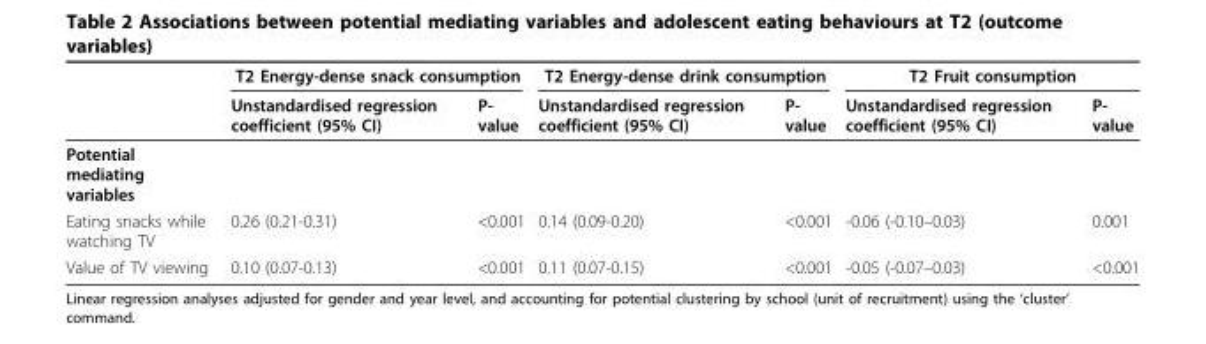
<table><thead><tr><td rowspan="2"></td><td colspan="2">T2 Energy-dense snack consumption</td><td colspan="2">T2 Energy-dense drink consumption</td><td colspan="2">T2 Fruit consumption</td></tr><tr><td>Unstandardised regression coefficient (95% CI)</td><td>P- value</td><td>Unstandardised regression coefficient (95% CI)</td><td>P- value</td><td>Unstandardised regression coefficient (95% CI)</td><td>P- value</td></tr></thead><tbody><tr><td colspan="7">Potential mediating variables</td></tr><tr><td>Eating snacks while watching TV</td><td>0.26 (0.21-0.31)</td><td>&lt;0.001</td><td>0.14 (0.09-0.20)</td><td>&lt;0.001</td><td>-0.06 (-0.10–0.03)</td><td>0.001</td></tr><tr><td>Value of TV viewing</td><td>0.10 (0.07-0.13)</td><td>&lt;0.001</td><td>0.11 (0.07-0.15)</td><td>&lt;0.001</td><td>-0.05 (-0.07–0.03)</td><td>&lt;0.001</td></tr></tbody></table>